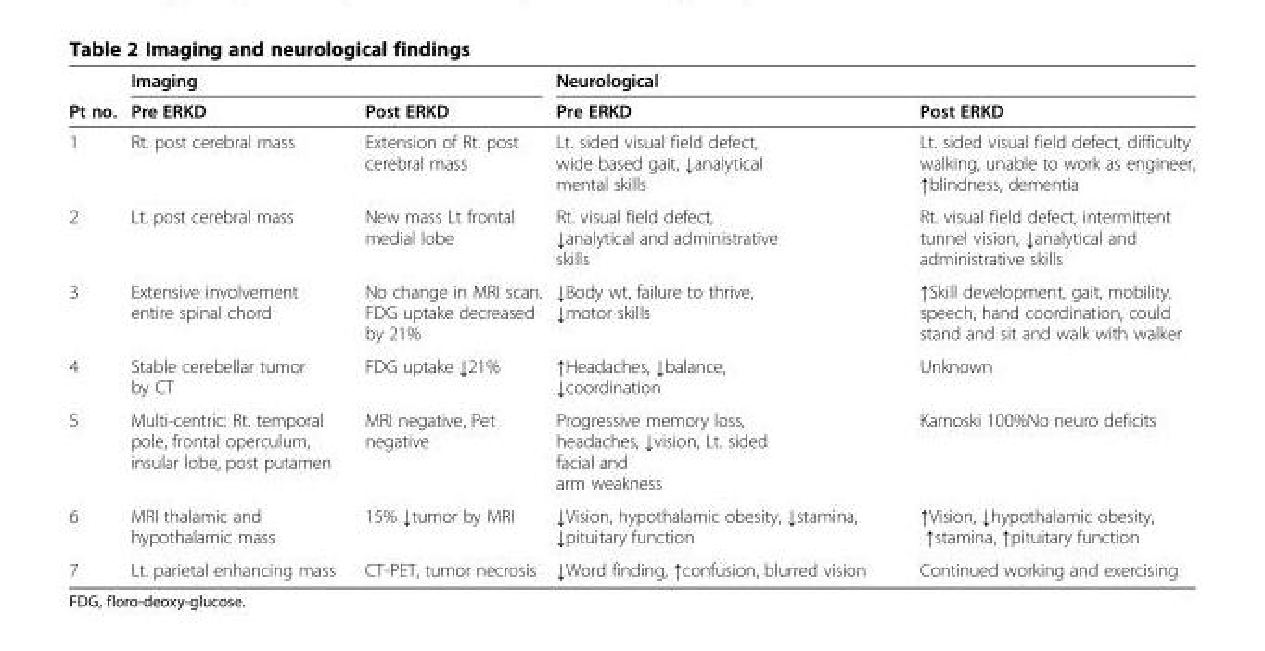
<table><thead><tr><td rowspan="2">Pt no.</td><td colspan="2">Imaging</td><td colspan="2">Neurological</td></tr><tr><td>Pre ERKD</td><td>Post ERKD</td><td>Pre ERKD</td><td>Post ERKD</td></tr></thead><tbody><tr><td>1</td><td>Rt. post cerebral mass</td><td>Extension of Rt. post cerebral mass</td><td>Lt. sided visual field defect, wide based gait, ↓analytical mental skills</td><td>Lt. sided visual field defect, difficulty walking, unable to work as engineer, ↑blindness, dementia</td></tr><tr><td>2</td><td>Lt. post cerebral mass</td><td>New mass Lt frontal medial lobe</td><td>Rt. visual field defect, ↓analytical and administrative skills</td><td>Rt. visual field defect, intermittent tunnel vision, ↓analytical and administrative skills</td></tr><tr><td>3</td><td>Extensive involvement entire spinal chord</td><td>No change in MRI scan. FDG uptake decreased by 21%</td><td>↓Body wt, failure to thrive, ↓motor skills</td><td>↑Skill development, gait, mobility, speech, hand coordination, could stand and sit and walk with walker</td></tr><tr><td>4</td><td>Stable cerebellar tumor by CT</td><td>FDG uptake ↓21%</td><td>↑Headaches, ↓balance, ↓coordination</td><td>Unknown</td></tr><tr><td>5</td><td>Multi-centric: Rt. temporal pole, frontal operculum, insular lobe, post putamen</td><td>MRI negative, Pet negative</td><td>Progressive memory loss, headaches, ↓vision, Lt. sided facial and arm weakness</td><td>Karnoski 100%No neuro deficits</td></tr><tr><td>6</td><td>MRI thalamic and hypothalamic mass</td><td>15% ↓tumor by MRI</td><td>↓Vision, hypothalamic obesity, ↓stamina, ↓pituitary function</td><td>↑Vision, ↓hypothalamic obesity, ↑stamina, ↑pituitary function</td></tr><tr><td>7</td><td>Lt. parietal enhancing mass</td><td>CT-PET, tumor necrosis</td><td>↓Word finding, ↑confusion, blurred vision</td><td>Continued working and exercising</td></tr></tbody></table>